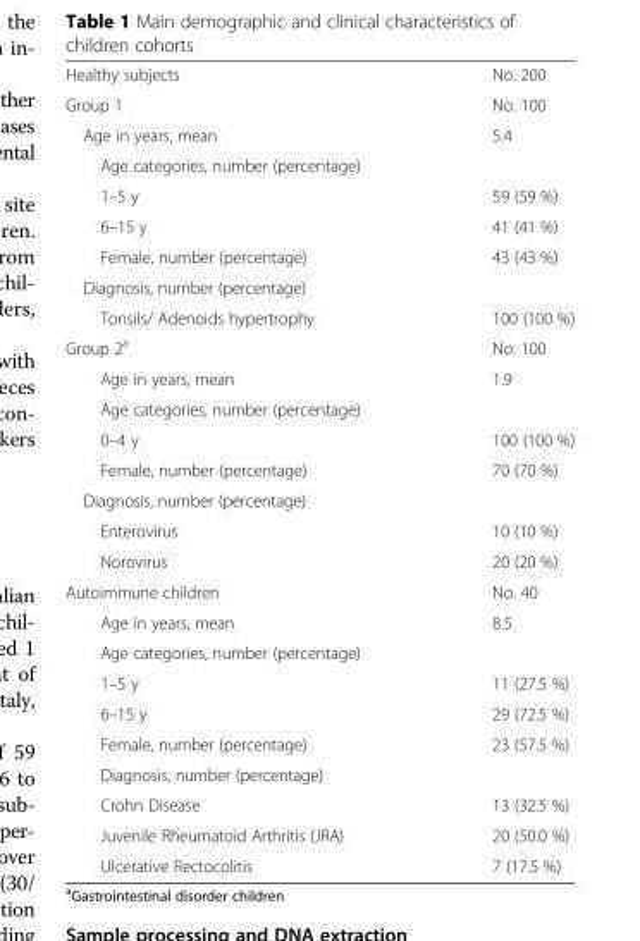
<table><tbody><tr><td>Healthy subjects</td><td>No. 200</td></tr><tr><td>Group 1</td><td>No. 100</td></tr><tr><td>Age in years, mean</td><td>5.4</td></tr><tr><td colspan="2">Age categories, number (percentage)</td></tr><tr><td>1–5 y</td><td>59 (59 %)</td></tr><tr><td>6–15 y</td><td>41 (41 %)</td></tr><tr><td>Female, number (percentage)</td><td>43 (43 %)</td></tr><tr><td colspan="2">Diagnosis, number (percentage)</td></tr><tr><td>Tonsils/ Adenoids hypertrophy</td><td>100 (100 %)</td></tr><tr><td>Group 2<sup>a</sup></td><td>No. 100</td></tr><tr><td>Age in years, mean</td><td>1.9</td></tr><tr><td colspan="2">Age categories, number (percentage)</td></tr><tr><td>0–4 y</td><td>100 (100 %)</td></tr><tr><td>Female, number (percentage)</td><td>70 (70 %)</td></tr><tr><td colspan="2">Diagnosis, number (percentage)</td></tr><tr><td>Enterovirus</td><td>10 (10 %)</td></tr><tr><td>Norovirus</td><td>20 (20 %)</td></tr><tr><td>Autoimmune children</td><td>No. 40</td></tr><tr><td>Age in years, mean</td><td>8.5</td></tr><tr><td colspan="2">Age categories, number (percentage)</td></tr><tr><td>1–5 y</td><td>11 (27.5 %)</td></tr><tr><td>6–15 y</td><td>29 (72.5 %)</td></tr><tr><td>Female, number (percentage)</td><td>23 (57.5 %)</td></tr><tr><td colspan="2">Diagnosis, number (percentage)</td></tr><tr><td>Crohn Disease</td><td>13 (32.5 %)</td></tr><tr><td>Juvenile Rheumatoid Arthritis (JRA)</td><td>20 (50.0 %)</td></tr><tr><td>Ulcerative Rectocolitis</td><td>7 (17.5 %)</td></tr></tbody></table>